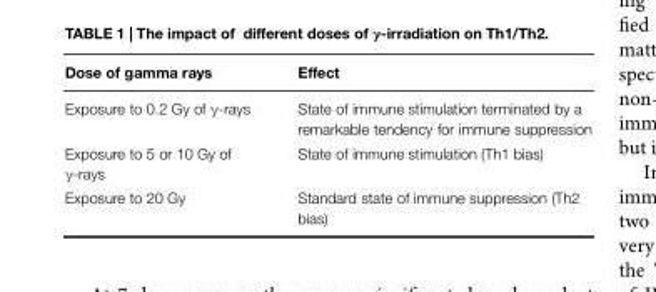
<table><thead><tr><td>Dose of gamma rays</td><td>Effect</td></tr></thead><tbody><tr><td>Exposure to 0.2 Gy of γ-rays</td><td>State of immune stimulation terminated by a remarkable tendency for immune suppression</td></tr><tr><td>Exposure to 5 or 10 Gy of γ-rays</td><td>State of immune stimulation (Th1 bias)</td></tr><tr><td>Exposure to 20 Gy</td><td>Standard state of immune suppression (Th2 bias)</td></tr></tbody></table>